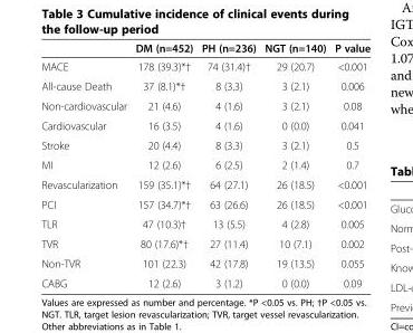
<table><thead><tr><td></td><td>DM (n=452)</td><td>PH (n=236)</td><td>NGT (n=140)</td><td>P value</td></tr></thead><tbody><tr><td>MACE</td><td>178 (39.3)*†</td><td>74 (31.4)†</td><td>29 (20.7)</td><td>&lt;0.001</td></tr><tr><td>All-cause Death</td><td>37 (8.1)*†</td><td>8 (3.3)</td><td>3 (2.1)</td><td>0.006</td></tr><tr><td>Non-cardiovascular</td><td>21 (4.6)</td><td>4 (1.6)</td><td>3 (2.1)</td><td>0.08</td></tr><tr><td>Cardiovascular</td><td>16 (3.5)</td><td>4 (1.6)</td><td>0 (0.0)</td><td>0.041</td></tr><tr><td>Stroke</td><td>20 (4.4)</td><td>8 (3.3)</td><td>3 (2.1)</td><td>0.5</td></tr><tr><td>MI</td><td>12 (2.6)</td><td>6 (2.5)</td><td>2 (1.4)</td><td>0.7</td></tr><tr><td>Revascularization</td><td>159 (35.1)*†</td><td>64 (27.1)</td><td>26 (18.5)</td><td>&lt;0.001</td></tr><tr><td>PCI</td><td>157 (34.7)*†</td><td>63 (26.6)</td><td>26 (18.5)</td><td>&lt;0.001</td></tr><tr><td>TLR</td><td>47 (10.3)†</td><td>13 (5.5)</td><td>4 (2.8)</td><td>0.005</td></tr><tr><td>TVR</td><td>80 (17.6)*†</td><td>27 (11.4)</td><td>10 (7.1)</td><td>0.002</td></tr><tr><td>Non-TVR</td><td>101 (22.3)</td><td>42 (17.8)</td><td>19 (13.5)</td><td>0.055</td></tr><tr><td>CABG</td><td>12 (2.6)</td><td>3 (1.2)</td><td>0 (0.0)</td><td>0.09</td></tr></tbody></table>